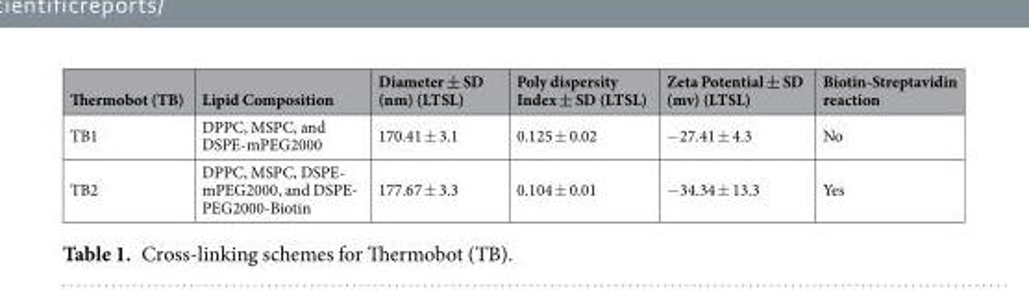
<table><thead><tr><td>Thermobot (TB)</td><td>Lipid Composition</td><td>Diameter ± SD (nm) (LTSL)</td><td>Poly dispersity Index ± SD (LTSL)</td><td>Zeta Potential ± SD (mv) (LTSL)</td><td>Biotin-Streptavidin reaction</td></tr></thead><tbody><tr><td>TB1</td><td>DPPC, MSPC, and DSPE-mPEG2000</td><td>170.41 ± 3.1</td><td>0.125 ± 0.02</td><td>−27.41 ± 4.3</td><td>No</td></tr><tr><td>TB2</td><td>DPPC, MSPC, DSPE- mPEG2000, and DSPE- PEG2000-Biotin</td><td>177.67 ± 3.3</td><td>0.104 ± 0.01</td><td>−34.34 ± 13.3</td><td>Yes</td></tr></tbody></table>